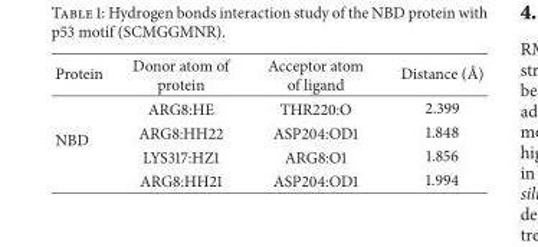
<table><thead><tr><td>Protein</td><td>Donor atom of protein</td><td>Acceptor atom of ligand</td><td>Distance (˚A)</td></tr></thead><tbody><tr><td rowspan="4">NBD</td><td>ARG8:HE</td><td>THR220:O</td><td>2.399</td></tr><tr><td>ARG8:HH22</td><td>ASP204:OD1</td><td>1.848</td></tr><tr><td>LYS317:HZ1</td><td>ARG8:O1</td><td>1.856</td></tr><tr><td>ARG8:HH21</td><td>ASP204:OD1</td><td>1.994</td></tr></tbody></table>